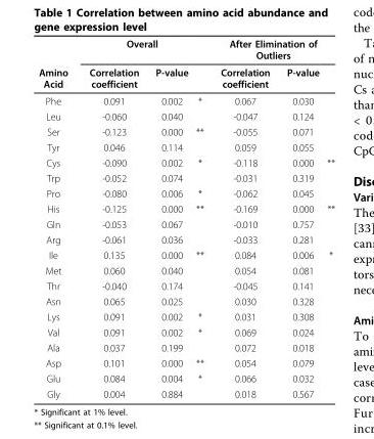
<table><thead><tr><td rowspan="2">Amino Acid</td><td colspan="3">Overall</td><td colspan="3">After Elimination of Outliers</td></tr><tr><td>Correlation coefficient</td><td>P-value</td><td></td><td>Correlation coefficient</td><td>P-value</td><td></td></tr></thead><tbody><tr><td>Phe</td><td>0.091</td><td>0.002</td><td>*</td><td>0.067</td><td>0.030</td><td></td></tr><tr><td>Leu</td><td>-0.060</td><td>0.040</td><td></td><td>-0.047</td><td>0.124</td><td></td></tr><tr><td>Ser</td><td>-0.123</td><td>0.000</td><td>**</td><td>-0.055</td><td>0.071</td><td></td></tr><tr><td>Tyr</td><td>0.046</td><td>0.114</td><td></td><td>0.059</td><td>0.055</td><td></td></tr><tr><td>Cys</td><td>-0.090</td><td>0.002</td><td>*</td><td>-0.118</td><td>0.000</td><td>**</td></tr><tr><td>Trp</td><td>-0.052</td><td>0.074</td><td></td><td>-0.031</td><td>0.319</td><td></td></tr><tr><td>Pro</td><td>-0.080</td><td>0.006</td><td>*</td><td>-0.062</td><td>0.045</td><td></td></tr><tr><td>His</td><td>-0.125</td><td>0.000</td><td>**</td><td>-0.169</td><td>0.000</td><td>**</td></tr><tr><td>Gln</td><td>-0.053</td><td>0.067</td><td></td><td>-0.010</td><td>0.757</td><td></td></tr><tr><td>Arg</td><td>-0.061</td><td>0.036</td><td></td><td>-0.033</td><td>0.281</td><td></td></tr><tr><td>Ile</td><td>0.135</td><td>0.000</td><td>**</td><td>0.084</td><td>0.006</td><td>*</td></tr><tr><td>Met</td><td>0.060</td><td>0.040</td><td></td><td>0.054</td><td>0.081</td><td></td></tr><tr><td>Thr</td><td>-0.040</td><td>0.174</td><td></td><td>-0.045</td><td>0.141</td><td></td></tr><tr><td>Asn</td><td>0.065</td><td>0.025</td><td></td><td>0.030</td><td>0.328</td><td></td></tr><tr><td>Lys</td><td>0.091</td><td>0.002</td><td>*</td><td>0.031</td><td>0.308</td><td></td></tr><tr><td>Val</td><td>0.091</td><td>0.002</td><td>*</td><td>0.069</td><td>0.024</td><td></td></tr><tr><td>Ala</td><td>0.037</td><td>0.199</td><td></td><td>0.072</td><td>0.018</td><td></td></tr><tr><td>Asp</td><td>0.101</td><td>0.000</td><td>**</td><td>0.054</td><td>0.079</td><td></td></tr><tr><td>Glu</td><td>0.084</td><td>0.004</td><td>*</td><td>0.066</td><td>0.032</td><td></td></tr><tr><td>Gly</td><td>0.004</td><td>0.884</td><td></td><td>0.018</td><td>0.567</td><td></td></tr></tbody></table>